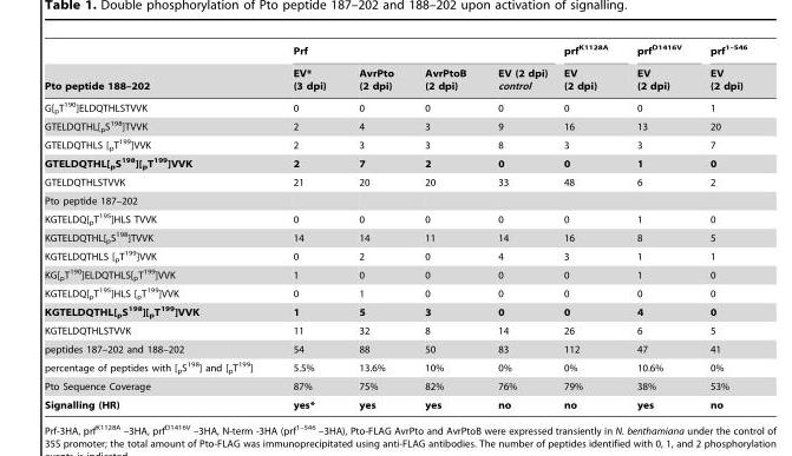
<table><thead><tr><td rowspan="2">Pto peptide 188–202</td><td colspan="4">Prf</td><td rowspan="2">prf<sup>K1128A</sup> EV (2 dpi)</td><td rowspan="2">prf<sup>D1416V</sup> EV (2 dpi)</td><td rowspan="2">prf<sup>1–546</sup> EV (2 dpi)</td></tr><tr><td>EV* (3 dpi)</td><td>AvrPto (2 dpi)</td><td>AvrPtoB (2 dpi)</td><td>EV (2 dpi) control</td></tr></thead><tbody><tr><td>G[<sub>p</sub>T<sup>190</sup>]ELDQTHLSTVVK</td><td>0</td><td>0</td><td>0</td><td>0</td><td>0</td><td>0</td><td>1</td></tr><tr><td>GTELDQTHL[<sub>p</sub>S<sup>198</sup>]TVVK</td><td>2</td><td>4</td><td>3</td><td>9</td><td>16</td><td>13</td><td>20</td></tr><tr><td>GTELDQTHLS [<sub>p</sub>T<sup>199</sup>]VVK</td><td>2</td><td>3</td><td>3</td><td>8</td><td>3</td><td>3</td><td>7</td></tr><tr><td>GTELDQTHL[<sub>p</sub>S<sup>198</sup>][<sub>p</sub>T<sup>199</sup>]VVK</td><td>2</td><td>7</td><td>2</td><td>0</td><td>0</td><td>1</td><td>0</td></tr><tr><td>GTELDQTHLSTVVK</td><td>21</td><td>20</td><td>20</td><td>33</td><td>48</td><td>6</td><td>2</td></tr><tr><td colspan="8">Pto peptide 187–202</td></tr><tr><td>KGTELDQ[<sub>p</sub>T<sup>195</sup>]HLS TVVK</td><td>0</td><td>0</td><td>0</td><td>0</td><td>0</td><td>1</td><td>0</td></tr><tr><td>KGTELDQTHL[<sub>p</sub>S<sup>198</sup>]TVVK</td><td>14</td><td>14</td><td>11</td><td>14</td><td>16</td><td>8</td><td>5</td></tr><tr><td>KGTELDQTHLS [<sub>p</sub>T<sup>199</sup>]VVK</td><td>0</td><td>2</td><td>0</td><td>4</td><td>3</td><td>1</td><td>1</td></tr><tr><td>KG[<sub>p</sub>T<sup>190</sup>]ELDQTHLS[<sub>p</sub>T<sup>199</sup>]VVK</td><td>1</td><td>0</td><td>0</td><td>0</td><td>0</td><td>1</td><td>0</td></tr><tr><td>KGTELDQ[<sub>p</sub>T<sup>195</sup>]HLS [<sub>p</sub>T<sup>199</sup>]VVK</td><td>0</td><td>1</td><td>0</td><td>0</td><td>0</td><td>0</td><td>0</td></tr><tr><td>KGTELDQTHL[<sub>p</sub>S<sup>198</sup>][<sub>p</sub>T<sup>199</sup>]VVK</td><td>1</td><td>5</td><td>3</td><td>0</td><td>0</td><td>4</td><td>0</td></tr><tr><td>KGTELDQTHLSTVVK</td><td>11</td><td>32</td><td>8</td><td>14</td><td>26</td><td>6</td><td>5</td></tr><tr><td>peptides 187–202 and 188–202</td><td>54</td><td>88</td><td>50</td><td>83</td><td>112</td><td>47</td><td>41</td></tr><tr><td>percentage of peptides with [<sub>p</sub>S<sup>198</sup>] and [<sub>p</sub>T<sup>199</sup>]</td><td>5.5%</td><td>13.6%</td><td>10%</td><td>0%</td><td>0%</td><td>10.6%</td><td>0%</td></tr><tr><td>Pto Sequence Coverage</td><td>87%</td><td>75%</td><td>82%</td><td>76%</td><td>79%</td><td>38%</td><td>53%</td></tr><tr><td>Signalling (HR)</td><td>yes*</td><td>yes</td><td>yes</td><td>no</td><td>no</td><td>yes</td><td>no</td></tr></tbody></table>